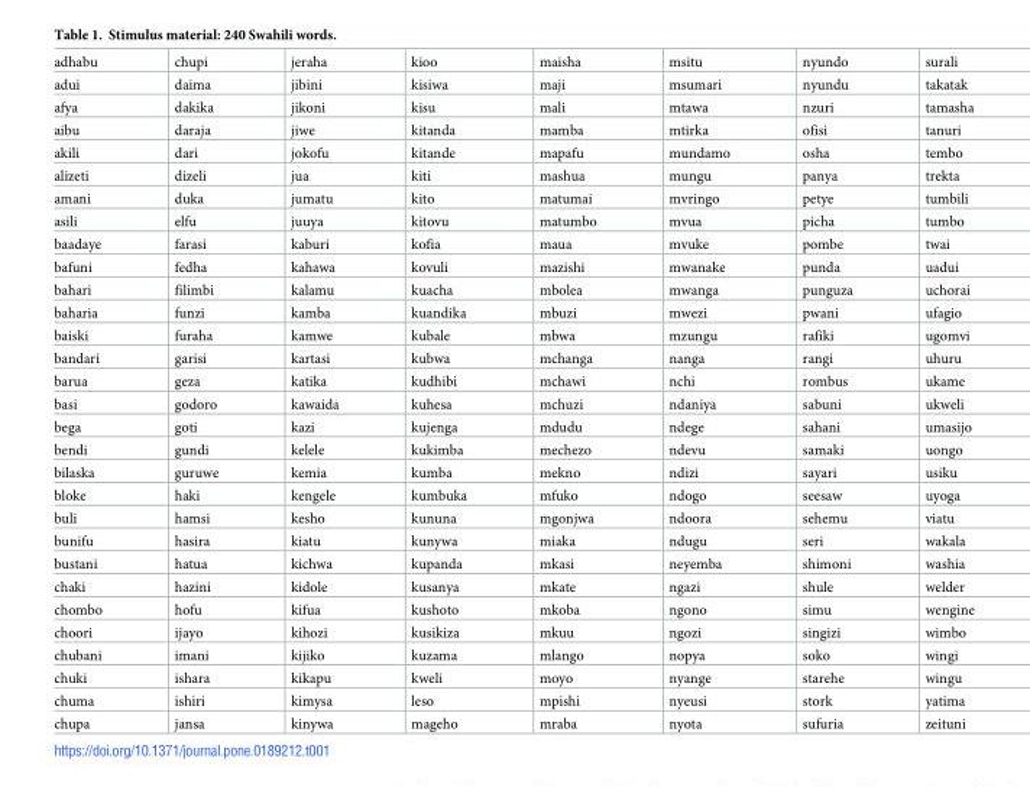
<table><tbody><tr><td>adhabu</td><td>chupi</td><td>jeraha</td><td>kioo</td><td>maisha</td><td>msitu</td><td>nyundo</td><td>surali</td></tr><tr><td>adui</td><td>daima</td><td>jibini</td><td>kisiwa</td><td>maji</td><td>msumari</td><td>nyundu</td><td>takatak</td></tr><tr><td>afya</td><td>dakika</td><td>jikoni</td><td>kisu</td><td>mali</td><td>mtawa</td><td>nzuri</td><td>tamasha</td></tr><tr><td>aibu</td><td>daraja</td><td>jiwe</td><td>kitanda</td><td>mamba</td><td>mtirka</td><td>ofisi</td><td>tanuri</td></tr><tr><td>akili</td><td>dari</td><td>jokofu</td><td>kitande</td><td>mapafu</td><td>mundamo</td><td>osha</td><td>tembo</td></tr><tr><td>alizeti</td><td>dizeli</td><td>jua</td><td>kiti</td><td>mashua</td><td>mungu</td><td>panya</td><td>trekta</td></tr><tr><td>amani</td><td>duka</td><td>jumatu</td><td>kito</td><td>matumai</td><td>mvringo</td><td>petye</td><td>tumbili</td></tr><tr><td>asili</td><td>elfu</td><td>juuya</td><td>kitovu</td><td>matumbo</td><td>mvua</td><td>picha</td><td>tumbo</td></tr><tr><td>baadaye</td><td>farasi</td><td>kaburi</td><td>kofia</td><td>maua</td><td>mvuke</td><td>pombe</td><td>twai</td></tr><tr><td>bafuni</td><td>fedha</td><td>kahawa</td><td>kovuli</td><td>mazishi</td><td>mwanake</td><td>punda</td><td>uadui</td></tr><tr><td>bahari</td><td>filimbi</td><td>kalamu</td><td>kuacha</td><td>mbolea</td><td>mwanga</td><td>punguza</td><td>uchorai</td></tr><tr><td>baharia</td><td>funzi</td><td>kamba</td><td>kuandika</td><td>mbuzi</td><td>mwezi</td><td>pwani</td><td>ufagio</td></tr><tr><td>baiski</td><td>furaha</td><td>kamwe</td><td>kubale</td><td>mbwa</td><td>mzungu</td><td>rafiki</td><td>ugomvi</td></tr><tr><td>bandari</td><td>garisi</td><td>kartasi</td><td>kubwa</td><td>mchanga</td><td>nanga</td><td>rangi</td><td>uhuru</td></tr><tr><td>barua</td><td>geza</td><td>katika</td><td>kudhibi</td><td>mchawi</td><td>nchi</td><td>rombus</td><td>ukame</td></tr><tr><td>basi</td><td>godoro</td><td>kawaida</td><td>kuhesa</td><td>mchuzi</td><td>ndaniya</td><td>sabuni</td><td>ukweli</td></tr><tr><td>bega</td><td>goti</td><td>kazi</td><td>kujenga</td><td>mdudu</td><td>ndege</td><td>sahani</td><td>umasijo</td></tr><tr><td>bendi</td><td>gundi</td><td>kelele</td><td>kukimba</td><td>mechezo</td><td>ndevu</td><td>samaki</td><td>uongo</td></tr><tr><td>bilaska</td><td>guruwe</td><td>kemia</td><td>kumba</td><td>mekno</td><td>ndizi</td><td>sayari</td><td>usiku</td></tr><tr><td>bloke</td><td>haki</td><td>kengele</td><td>kumbuka</td><td>mfuko</td><td>ndogo</td><td>seesaw</td><td>uyoga</td></tr><tr><td>buli</td><td>hamsi</td><td>kesho</td><td>kununa</td><td>mgonjwa</td><td>ndoora</td><td>sehemu</td><td>viatu</td></tr><tr><td>bunifu</td><td>hasira</td><td>kiatu</td><td>kunywa</td><td>miaka</td><td>ndugu</td><td>seri</td><td>wakala</td></tr><tr><td>bustani</td><td>hatua</td><td>kichwa</td><td>kupanda</td><td>mkasi</td><td>neyemba</td><td>shimoni</td><td>washia</td></tr><tr><td>chaki</td><td>hazini</td><td>kidole</td><td>kusanya</td><td>mkate</td><td>ngazi</td><td>shule</td><td>welder</td></tr><tr><td>chombo</td><td>hofu</td><td>kifua</td><td>kushoto</td><td>mkoba</td><td>ngono</td><td>simu</td><td>wengine</td></tr><tr><td>choori</td><td>ijayo</td><td>kihozi</td><td>kusikiza</td><td>mkuu</td><td>ngozi</td><td>singizi</td><td>wimbo</td></tr><tr><td>chubani</td><td>imani</td><td>kijiko</td><td>kuzama</td><td>mlango</td><td>nopya</td><td>soko</td><td>wingi</td></tr><tr><td>chuki</td><td>ishara</td><td>kikapu</td><td>kweli</td><td>moyo</td><td>nyange</td><td>starehe</td><td>wingu</td></tr><tr><td>chuma</td><td>ishiri</td><td>kimysa</td><td>leso</td><td>mpishi</td><td>nyeusi</td><td>stork</td><td>yatima</td></tr><tr><td>chupa</td><td>jansa</td><td>kinywa</td><td>mageho</td><td>mraba</td><td>nyota</td><td>sufuria</td><td>zeituni</td></tr></tbody></table>